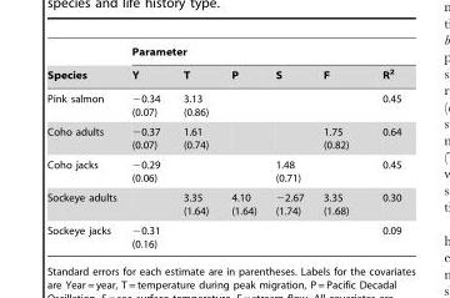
<table><thead><tr><td rowspan="2">Species</td><td colspan="6">Parameter</td></tr><tr><td>Y</td><td>T</td><td>P</td><td>S</td><td>F</td><td>R<sup>2</sup></td></tr></thead><tbody><tr><td>Pink salmon</td><td>−0.34 (0.07)</td><td>3.13 (0.86)</td><td></td><td></td><td></td><td>0.45</td></tr><tr><td>Coho adults</td><td>−0.37 (0.07)</td><td>1.61 (0.74)</td><td></td><td></td><td>1.75 (0.82)</td><td>0.64</td></tr><tr><td>Coho jacks</td><td>−0.29 (0.06)</td><td></td><td></td><td>1.48 (0.71)</td><td></td><td>0.45</td></tr><tr><td>Sockeye adults</td><td></td><td>3.35 (1.64)</td><td>4.10 (1.64)</td><td>−2.67 (1.74)</td><td>3.35 (1.68)</td><td>0.30</td></tr><tr><td>Sockeye jacks</td><td>−0.31 (0.16)</td><td></td><td></td><td></td><td></td><td>0.09</td></tr></tbody></table>